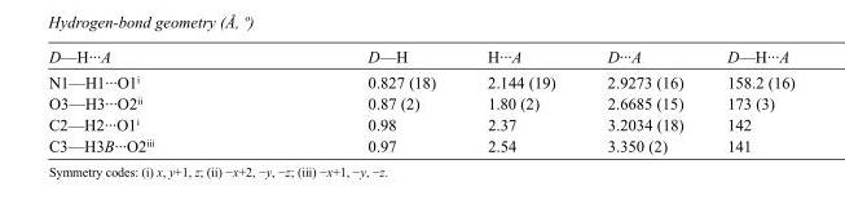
<table><tbody><tr><td>D—H···A</td><td>D—H</td><td>H···A</td><td>D···A</td><td>D—H···A</td></tr><tr><td>N1—H1···O1<sup>i</sup></td><td>0.827 (18)</td><td>2.144 (19)</td><td>2.9273 (16)</td><td>158.2 (16)</td></tr><tr><td>O3—H3···O2<sup>ii</sup></td><td>0.87 (2)</td><td>1.80 (2)</td><td>2.6685 (15)</td><td>173 (3)</td></tr><tr><td>C2—H2···O1<sup>i</sup></td><td>0.98</td><td>2.37</td><td>3.2034 (18)</td><td>142</td></tr><tr><td>C3—H3B···O2<sup>iii</sup></td><td>0.97</td><td>2.54</td><td>3.350 (2)</td><td>141</td></tr></tbody></table>